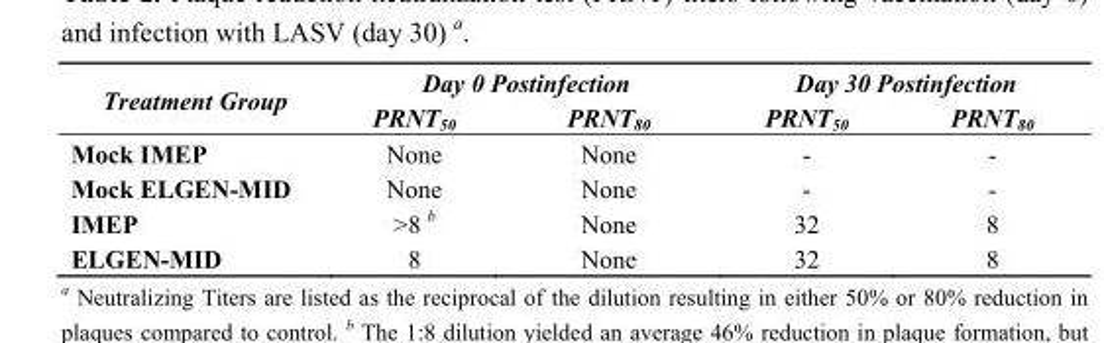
<table><thead><tr><td rowspan="2">Treatment Group</td><td colspan="2">Day 0 Postinfection</td><td colspan="2">Day 30 Postinfection</td></tr><tr><td>PRNT<sub>50</sub></td><td>PRNT<sub>80</sub></td><td>PRNT<sub>50</sub></td><td>PRNT<sub>80</sub></td></tr></thead><tbody><tr><td>Mock IMEP</td><td>None</td><td>None</td><td>-</td><td>-</td></tr><tr><td>Mock ELGEN-MID</td><td>None</td><td>None</td><td>-</td><td>-</td></tr><tr><td>IMEP</td><td>&gt;8 <sup>b</sup></td><td>None</td><td>32</td><td>8</td></tr><tr><td>ELGEN-MID</td><td>8</td><td>None</td><td>32</td><td>8</td></tr></tbody></table>